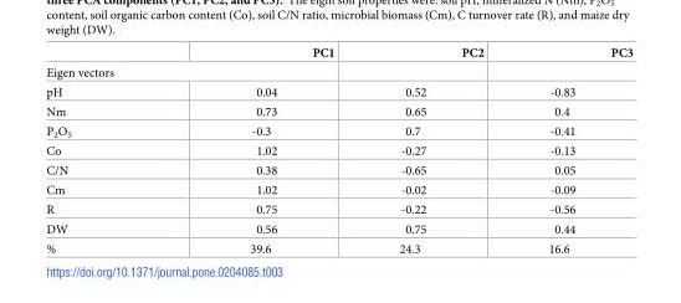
<table><thead><tr><td></td><td>PC1</td><td>PC2</td><td>PC3</td></tr></thead><tbody><tr><td colspan="4">Eigen vectors</td></tr><tr><td>pH</td><td>0.04</td><td>0.52</td><td>-0.83</td></tr><tr><td>Nm</td><td>0.73</td><td>0.65</td><td>0.4</td></tr><tr><td>P<sub>2</sub>O<sub>5</sub></td><td>-0.3</td><td>0.7</td><td>-0.41</td></tr><tr><td>Co</td><td>1.02</td><td>-0.27</td><td>-0.13</td></tr><tr><td>C/N</td><td>0.38</td><td>-0.65</td><td>0.05</td></tr><tr><td>Cm</td><td>1.02</td><td>-0.02</td><td>-0.09</td></tr><tr><td>R</td><td>0.75</td><td>-0.22</td><td>-0.56</td></tr><tr><td>DW</td><td>0.56</td><td>0.75</td><td>0.44</td></tr><tr><td>%</td><td>39.6</td><td>24.3</td><td>16.6</td></tr></tbody></table>